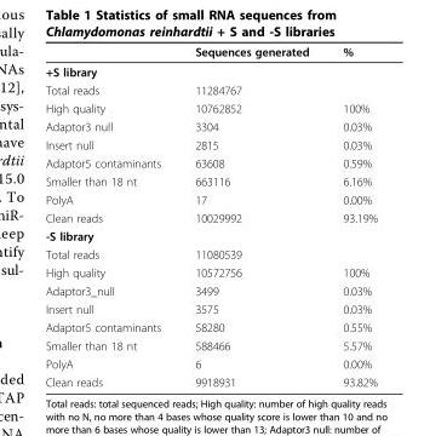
<table><thead><tr><td></td><td>Sequences generated</td><td>%</td></tr></thead><tbody><tr><td colspan="3">+S library</td></tr><tr><td>Total reads</td><td>11284767</td><td></td></tr><tr><td>High quality</td><td>10762852</td><td>100%</td></tr><tr><td>Adaptor3 null</td><td>3304</td><td>0.03%</td></tr><tr><td>Insert null</td><td>2815</td><td>0.03%</td></tr><tr><td>Adaptor5 contaminants</td><td>63608</td><td>0.59%</td></tr><tr><td>Smaller than 18 nt</td><td>663116</td><td>6.16%</td></tr><tr><td>PolyA</td><td>17</td><td>0.00%</td></tr><tr><td>Clean reads</td><td>10029992</td><td>93.19%</td></tr><tr><td colspan="3">-S library</td></tr><tr><td>Total reads</td><td>11080539</td><td></td></tr><tr><td>High quality</td><td>10572756</td><td>100%</td></tr><tr><td>Adaptor3_null</td><td>3499</td><td>0.03%</td></tr><tr><td>Insert null</td><td>3575</td><td>0.03%</td></tr><tr><td>Adaptor5 contaminants</td><td>58280</td><td>0.55%</td></tr><tr><td>Smaller than 18 nt</td><td>588466</td><td>5.57%</td></tr><tr><td>PolyA</td><td>6</td><td>0.00%</td></tr><tr><td>Clean reads</td><td>9918931</td><td>93.82%</td></tr></tbody></table>